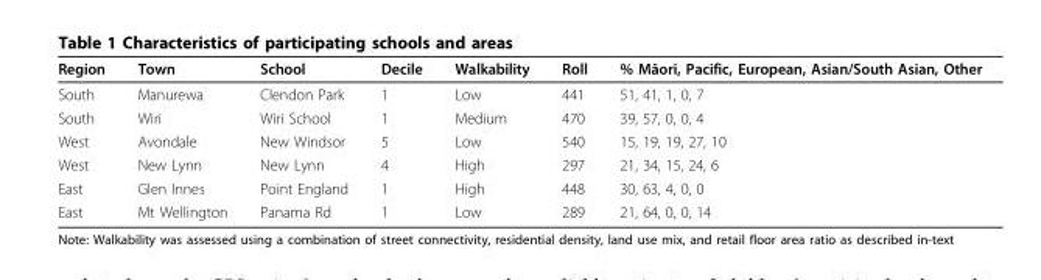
<table><thead><tr><td>Region</td><td>Town</td><td>School</td><td>Decile</td><td>Walkability</td><td>Roll</td><td>% Māori, Pacific, European, Asian/South Asian, Other</td></tr></thead><tbody><tr><td>South</td><td>Manurewa</td><td>Clendon Park</td><td>1</td><td>Low</td><td>441</td><td>51, 41, 1, 0, 7</td></tr><tr><td>South</td><td>Wiri</td><td>Wiri School</td><td>1</td><td>Medium</td><td>470</td><td>39, 57, 0, 0, 4</td></tr><tr><td>West</td><td>Avondale</td><td>New Windsor</td><td>5</td><td>Low</td><td>540</td><td>15, 19, 19, 27, 10</td></tr><tr><td>West</td><td>New Lynn</td><td>New Lynn</td><td>4</td><td>High</td><td>297</td><td>21, 34, 15, 24, 6</td></tr><tr><td>East</td><td>Glen Innes</td><td>Point England</td><td>1</td><td>High</td><td>448</td><td>30, 63, 4, 0, 0</td></tr><tr><td>East</td><td>Mt Wellington</td><td>Panama Rd</td><td>1</td><td>Low</td><td>289</td><td>21, 64, 0, 0, 14</td></tr></tbody></table>